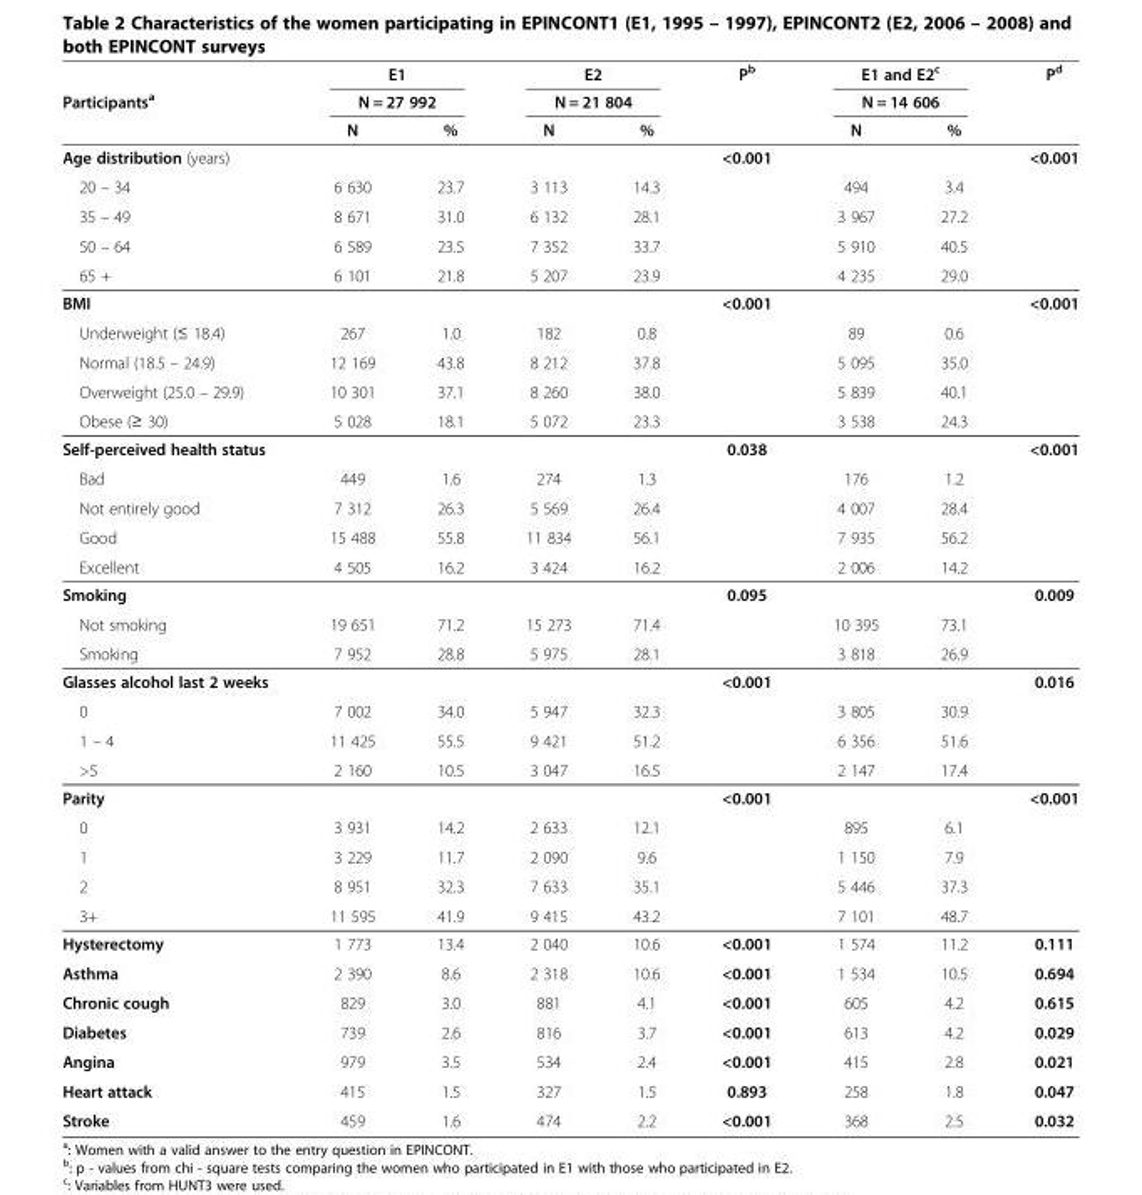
<table><thead><tr><td rowspan="3">Participants<sup>a</sup></td><td rowspan="2" colspan="2">E1 N = 27 992</td><td rowspan="2" colspan="2">E2 N = 21 804</td><td rowspan="3">P<sup>b</sup></td><td rowspan="2" colspan="2">E1 and E2<sup>c</sup> N = 14 606</td><td rowspan="3">P<sup>d</sup></td></tr><tr></tr><tr><td>N</td><td>%</td><td>N</td><td>%</td><td>N</td><td>%</td></tr></thead><tbody><tr><td>Age distribution (years)</td><td></td><td></td><td></td><td></td><td>&lt;0.001</td><td></td><td></td><td>&lt;0.001</td></tr><tr><td>20 – 34</td><td>6 630</td><td>23.7</td><td>3 113</td><td>14.3</td><td></td><td>494</td><td>3.4</td><td></td></tr><tr><td>35 – 49</td><td>8 671</td><td>31.0</td><td>6 132</td><td>28.1</td><td></td><td>3 967</td><td>27.2</td><td></td></tr><tr><td>50 – 64</td><td>6 589</td><td>23.5</td><td>7 352</td><td>33.7</td><td></td><td>5 910</td><td>40.5</td><td></td></tr><tr><td>65 +</td><td>6 101</td><td>21.8</td><td>5 207</td><td>23.9</td><td></td><td>4 235</td><td>29.0</td><td></td></tr><tr><td>BMI</td><td></td><td></td><td></td><td></td><td>&lt;0.001</td><td></td><td></td><td>&lt;0.001</td></tr><tr><td>Underweight (≤ 18.4)</td><td>267</td><td>1.0</td><td>182</td><td>0.8</td><td></td><td>89</td><td>0.6</td><td></td></tr><tr><td>Normal (18.5 – 24.9)</td><td>12 169</td><td>43.8</td><td>8 212</td><td>37.8</td><td></td><td>5 095</td><td>35.0</td><td></td></tr><tr><td>Overweight (25.0 – 29.9)</td><td>10 301</td><td>37.1</td><td>8 260</td><td>38.0</td><td></td><td>5 839</td><td>40.1</td><td></td></tr><tr><td>Obese (≥ 30)</td><td>5 028</td><td>18.1</td><td>5 072</td><td>23.3</td><td></td><td>3 538</td><td>24.3</td><td></td></tr><tr><td>Self-perceived health status</td><td></td><td></td><td></td><td></td><td>0.038</td><td></td><td></td><td>&lt;0.001</td></tr><tr><td>Bad</td><td>449</td><td>1.6</td><td>274</td><td>1.3</td><td></td><td>176</td><td>1.2</td><td></td></tr><tr><td>Not entirely good</td><td>7 312</td><td>26.3</td><td>5 569</td><td>26.4</td><td></td><td>4 007</td><td>28.4</td><td></td></tr><tr><td>Good</td><td>15 488</td><td>55.8</td><td>11 834</td><td>56.1</td><td></td><td>7 935</td><td>56.2</td><td></td></tr><tr><td>Excellent</td><td>4 505</td><td>16.2</td><td>3 424</td><td>16.2</td><td></td><td>2 006</td><td>14.2</td><td></td></tr><tr><td>Smoking</td><td></td><td></td><td></td><td></td><td>0.095</td><td></td><td></td><td>0.009</td></tr><tr><td>Not smoking</td><td>19 651</td><td>71.2</td><td>15 273</td><td>71.4</td><td></td><td>10 395</td><td>73.1</td><td></td></tr><tr><td>Smoking</td><td>7 952</td><td>28.8</td><td>5 975</td><td>28.1</td><td></td><td>3 818</td><td>26.9</td><td></td></tr><tr><td>Glasses alcohol last 2 weeks</td><td></td><td></td><td></td><td></td><td>&lt;0.001</td><td></td><td></td><td>0.016</td></tr><tr><td>0</td><td>7 002</td><td>34.0</td><td>5 947</td><td>32.3</td><td></td><td>3 805</td><td>30.9</td><td></td></tr><tr><td>1 – 4</td><td>11 425</td><td>55.5</td><td>9 421</td><td>51.2</td><td></td><td>6 356</td><td>51.6</td><td></td></tr><tr><td>&gt;5</td><td>2 160</td><td>10.5</td><td>3 047</td><td>16.5</td><td></td><td>2 147</td><td>17.4</td><td></td></tr><tr><td>Parity</td><td></td><td></td><td></td><td></td><td>&lt;0.001</td><td></td><td></td><td>&lt;0.001</td></tr><tr><td>0</td><td>3 931</td><td>14.2</td><td>2 633</td><td>12.1</td><td></td><td>895</td><td>6.1</td><td></td></tr><tr><td>1</td><td>3 229</td><td>11.7</td><td>2 090</td><td>9.6</td><td></td><td>1 150</td><td>7.9</td><td></td></tr><tr><td>2</td><td>8 951</td><td>32.3</td><td>7 633</td><td>35.1</td><td></td><td>5 446</td><td>37.3</td><td></td></tr><tr><td>3+</td><td>11 595</td><td>41.9</td><td>9 415</td><td>43.2</td><td></td><td>7 101</td><td>48.7</td><td></td></tr><tr><td>Hysterectomy</td><td>1 773</td><td>13.4</td><td>2 040</td><td>10.6</td><td>&lt;0.001</td><td>1 574</td><td>11.2</td><td>0.111</td></tr><tr><td>Asthma</td><td>2 390</td><td>8.6</td><td>2 318</td><td>10.6</td><td>&lt;0.001</td><td>1 534</td><td>10.5</td><td>0.694</td></tr><tr><td>Chronic cough</td><td>829</td><td>3.0</td><td>881</td><td>4.1</td><td>&lt;0.001</td><td>605</td><td>4.2</td><td>0.615</td></tr><tr><td>Diabetes</td><td>739</td><td>2.6</td><td>816</td><td>3.7</td><td>&lt;0.001</td><td>613</td><td>4.2</td><td>0.029</td></tr><tr><td>Angina</td><td>979</td><td>3.5</td><td>534</td><td>2.4</td><td>&lt;0.001</td><td>415</td><td>2.8</td><td>0.021</td></tr><tr><td>Heart attack</td><td>415</td><td>1.5</td><td>327</td><td>1.5</td><td>0.893</td><td>258</td><td>1.8</td><td>0.047</td></tr><tr><td>Stroke</td><td>459</td><td>1.6</td><td>474</td><td>2.2</td><td>&lt;0.001</td><td>368</td><td>2.5</td><td>0.032</td></tr></tbody></table>